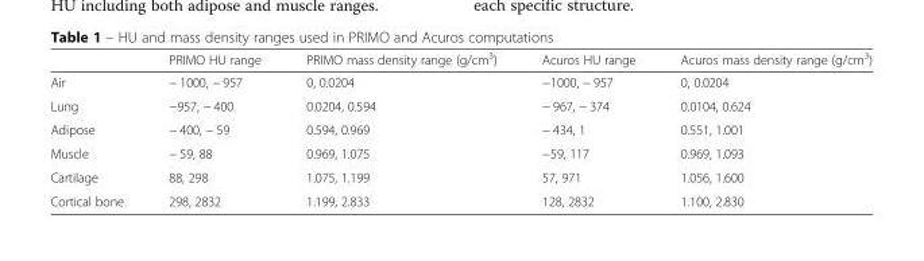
<table><thead><tr><td></td><td>PRIMO HU range</td><td>PRIMO mass density range (g/cm<sup>3</sup>)</td><td>Acuros HU range</td><td>Acuros mass density range (g/cm<sup>3</sup>)</td></tr></thead><tbody><tr><td>Air</td><td>− 1000, − 957</td><td>0, 0.0204</td><td>−1000, − 957</td><td>0, 0.0204</td></tr><tr><td>Lung</td><td>−957, − 400</td><td>0.0204, 0.594</td><td>− 967, − 374</td><td>0.0104, 0.624</td></tr><tr><td>Adipose</td><td>− 400, − 59</td><td>0.594, 0.969</td><td>− 434, 1</td><td>0.551, 1.001</td></tr><tr><td>Muscle</td><td>− 59, 88</td><td>0.969, 1.075</td><td>−59, 117</td><td>0.969, 1.093</td></tr><tr><td>Cartilage</td><td>88, 298</td><td>1.075, 1.199</td><td>57, 971</td><td>1.056, 1.600</td></tr><tr><td>Cortical bone</td><td>298, 2832</td><td>1.199, 2.833</td><td>128, 2832</td><td>1.100, 2.830</td></tr></tbody></table>